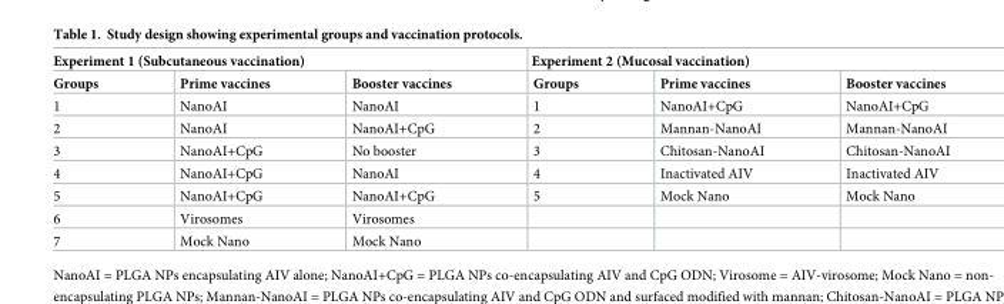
<table><thead><tr><td colspan="3">Experiment 1 (Subcutaneous vaccination)</td><td colspan="3">Experiment 2 (Mucosal vaccination)</td></tr><tr><td>Groups</td><td>Prime vaccines</td><td>Booster vaccines</td><td>Groups</td><td>Prime vaccines</td><td>Booster vaccines</td></tr></thead><tbody><tr><td>1</td><td>NanoAI</td><td>NanoAI</td><td>1</td><td>NanoAI+CpG</td><td>NanoAI+CpG</td></tr><tr><td>2</td><td>NanoAI</td><td>NanoAI+CpG</td><td>2</td><td>Mannan-NanoAI</td><td>Mannan-NanoAI</td></tr><tr><td>3</td><td>NanoAI+CpG</td><td>No booster</td><td>3</td><td>Chitosan-NanoAI</td><td>Chitosan-NanoAI</td></tr><tr><td>4</td><td>NanoAI+CpG</td><td>NanoAI</td><td>4</td><td>Inactivated AIV</td><td>Inactivated AIV</td></tr><tr><td>5</td><td>NanoAI+CpG</td><td>NanoAI+CpG</td><td>5</td><td>Mock Nano</td><td>Mock Nano</td></tr><tr><td>6</td><td>Virosomes</td><td>Virosomes</td><td></td><td></td><td></td></tr><tr><td>7</td><td>Mock Nano</td><td>Mock Nano</td><td></td><td></td><td></td></tr></tbody></table>